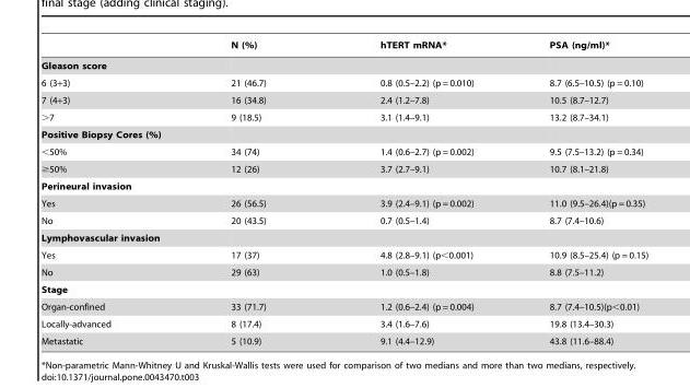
<table><thead><tr><td></td><td>N (%)</td><td>hTERT mRNA*</td><td>PSA (ng/ml)*</td></tr></thead><tbody><tr><td colspan="4">Gleason score</td></tr><tr><td>6 (3+3)</td><td>21 (46.7)</td><td>0.8 (0.5–2.2) (p = 0.010)</td><td>8.7 (6.5–10.5) (p = 0.10)</td></tr><tr><td>7 (4+3)</td><td>16 (34.8)</td><td>2.4 (1.2–7.8)</td><td>10.5 (8.7–12.7)</td></tr><tr><td>&gt;7</td><td>9 (18.5)</td><td>3.1 (1.4–9.1)</td><td>13.2 (8.7–34.1)</td></tr><tr><td colspan="4">Positive Biopsy Cores (%)</td></tr><tr><td>&lt;50%</td><td>34 (74)</td><td>1.4 (0.6–2.7) (p = 0.002)</td><td>9.5 (7.5–13.2) (p = 0.34)</td></tr><tr><td>≥50%</td><td>12 (26)</td><td>3.7 (2.7–9.1)</td><td>10.7 (8.1–21.8)</td></tr><tr><td colspan="4">Perineural invasion</td></tr><tr><td>Yes</td><td>26 (56.5)</td><td>3.9 (2.4–9.1) (p = 0.002)</td><td>11.0 (9.5–26.4)(p = 0.35)</td></tr><tr><td>No</td><td>20 (43.5)</td><td>0.7 (0.5–1.4)</td><td>8.7 (7.4–10.6)</td></tr><tr><td colspan="4">Lymphovascular invasion</td></tr><tr><td>Yes</td><td>17 (37)</td><td>4.8 (2.8–9.1) (p&lt;0.001)</td><td>10.9 (8.5–25.4) (p = 0.15)</td></tr><tr><td>No</td><td>29 (63)</td><td>1.0 (0.5–1.8)</td><td>8.8 (7.5–11.2)</td></tr><tr><td colspan="4">Stage</td></tr><tr><td>Organ-confined</td><td>33 (71.7)</td><td>1.2 (0.6–2.4) (p = 0.004)</td><td>8.7 (7.4–10.5)(p&lt;0.01)</td></tr><tr><td>Locally-advanced</td><td>8 (17.4)</td><td>3.4 (1.6–7.6)</td><td>19.8 (13.4–30.3)</td></tr><tr><td>Metastatic</td><td>5 (10.9)</td><td>9.1 (4.4–12.9)</td><td>43.8 (11.6–88.4)</td></tr></tbody></table>